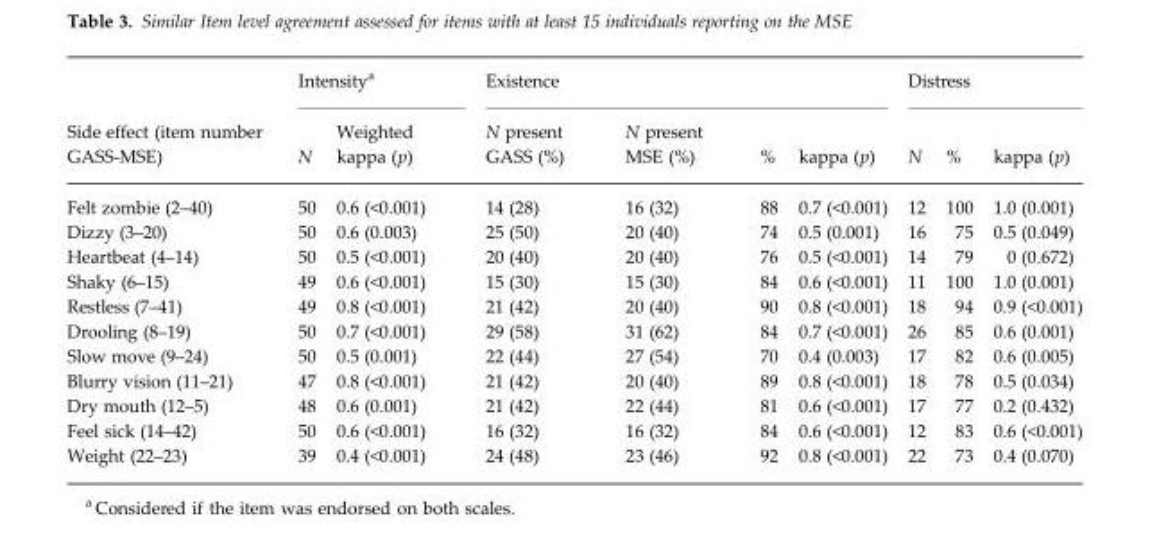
<table><thead><tr><td rowspan="2">Side effect (item number GASS-MSE)</td><td colspan="2">Intensity<sup>a</sup></td><td colspan="4">Existence</td><td colspan="3">Distress</td></tr><tr><td>N</td><td>Weighted kappa (p)</td><td>N present GASS (%)</td><td>N present MSE (%)</td><td>%</td><td>kappa (p)</td><td>N</td><td>%</td><td>kappa (p)</td></tr></thead><tbody><tr><td>Felt zombie (2–40)</td><td>50</td><td>0.6 (&lt;0.001)</td><td>14 (28)</td><td>16 (32)</td><td>88</td><td>0.7 (&lt;0.001)</td><td>12</td><td>100</td><td>1.0 (0.001)</td></tr><tr><td>Dizzy (3–20)</td><td>50</td><td>0.6 (0.003)</td><td>25 (50)</td><td>20 (40)</td><td>74</td><td>0.5 (0.001)</td><td>16</td><td>75</td><td>0.5 (0.049)</td></tr><tr><td>Heartbeat (4–14)</td><td>50</td><td>0.5 (&lt;0.001)</td><td>20 (40)</td><td>20 (40)</td><td>76</td><td>0.5 (&lt;0.001)</td><td>14</td><td>79</td><td>0 (0.672)</td></tr><tr><td>Shaky (6–15)</td><td>49</td><td>0.6 (&lt;0.001)</td><td>15 (30)</td><td>15 (30)</td><td>84</td><td>0.6 (&lt;0.001)</td><td>11</td><td>100</td><td>1.0 (0.001)</td></tr><tr><td>Restless (7–41)</td><td>49</td><td>0.8 (&lt;0.001)</td><td>21 (42)</td><td>20 (40)</td><td>90</td><td>0.8 (&lt;0.001)</td><td>18</td><td>94</td><td>0.9 (&lt;0.001)</td></tr><tr><td>Drooling (8–19)</td><td>50</td><td>0.7 (&lt;0.001)</td><td>29 (58)</td><td>31 (62)</td><td>84</td><td>0.7 (&lt;0.001)</td><td>26</td><td>85</td><td>0.6 (0.001)</td></tr><tr><td>Slow move (9–24)</td><td>50</td><td>0.5 (0.001)</td><td>22 (44)</td><td>27 (54)</td><td>70</td><td>0.4 (0.003)</td><td>17</td><td>82</td><td>0.6 (0.005)</td></tr><tr><td>Blurry vision (11–21)</td><td>47</td><td>0.8 (&lt;0.001)</td><td>21 (42)</td><td>20 (40)</td><td>89</td><td>0.8 (&lt;0.001)</td><td>18</td><td>78</td><td>0.5 (0.034)</td></tr><tr><td>Dry mouth (12–5)</td><td>48</td><td>0.6 (0.001)</td><td>21 (42)</td><td>22 (44)</td><td>81</td><td>0.6 (&lt;0.001)</td><td>17</td><td>77</td><td>0.2 (0.432)</td></tr><tr><td>Feel sick (14–42)</td><td>50</td><td>0.6 (&lt;0.001)</td><td>16 (32)</td><td>16 (32)</td><td>84</td><td>0.6 (&lt;0.001)</td><td>12</td><td>83</td><td>0.6 (&lt;0.001)</td></tr><tr><td>Weight (22–23)</td><td>39</td><td>0.4 (&lt;0.001)</td><td>24 (48)</td><td>23 (46)</td><td>92</td><td>0.8 (&lt;0.001)</td><td>22</td><td>73</td><td>0.4 (0.070)</td></tr></tbody></table>